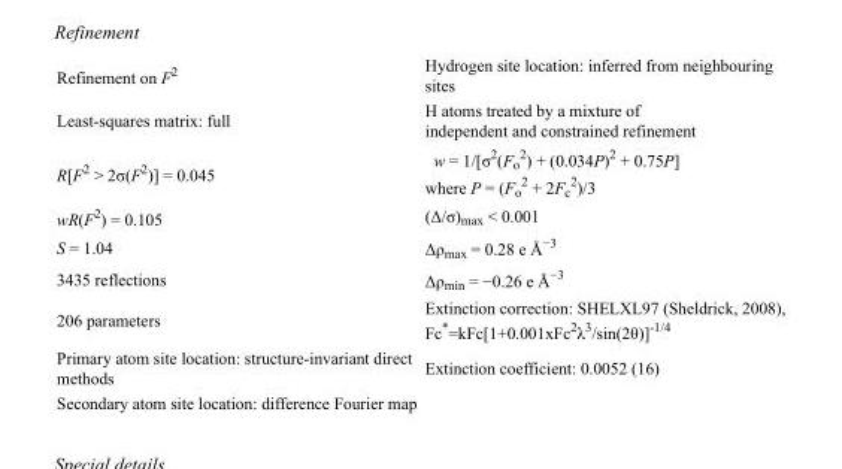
<table><tbody><tr><td>Refinement on F<sup>2</sup></td><td>Hydrogen site location: inferred from neighbouring sites</td></tr><tr><td>Least-squares matrix: full</td><td>H atoms treated by a mixture of independent and constrained refinement</td></tr><tr><td>R[F<sup>2</sup> &gt; 2σ(F<sup>2</sup>)] = 0.045</td><td>w = 1/[σ<sup>2</sup>(F<sub>o</sub> <sup>2</sup>) + (0.034P)<sup>2</sup> + 0.75P] where P = (F<sub>o</sub> <sup>2</sup> + 2F<sub>c</sub> <sup>2</sup>)/3</td></tr><tr><td>wR(F<sup>2</sup>) = 0.105</td><td>(Δ/σ)<sub>max</sub> &lt; 0.001</td></tr><tr><td>S = 1.04</td><td>Δρ<sub>max</sub> = 0.28 e Å<sup>−3</sup></td></tr><tr><td>3435 reflections</td><td>Δρ<sub>min</sub> = −0.26 e Å<sup>−3</sup></td></tr><tr><td>206 parameters</td><td>Extinction correction: SHELXL97 (Sheldrick, 2008), Fc*=kFc[1+0.001xFc<sup>2</sup>λ<sup>3</sup>/sin(2θ)]<sup>-1/4</sup></td></tr><tr><td>Primary atom site location: structure-invariant direct methods</td><td>Extinction coefficient: 0.0052 (16)</td></tr><tr><td>Secondary atom site location: difference Fourier map</td><td></td></tr></tbody></table>